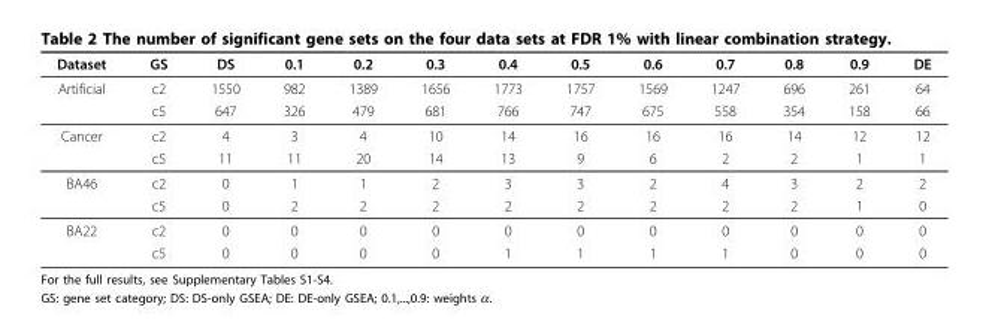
<table><thead><tr><td>Dataset</td><td>GS</td><td>DS</td><td>0.1</td><td>0.2</td><td>0.3</td><td>0.4</td><td>0.5</td><td>0.6</td><td>0.7</td><td>0.8</td><td>0.9</td><td>DE</td></tr></thead><tbody><tr><td rowspan="2">Artificial</td><td>c2</td><td>1550</td><td>982</td><td>1389</td><td>1656</td><td>1773</td><td>1757</td><td>1569</td><td>1247</td><td>696</td><td>261</td><td>64</td></tr><tr><td>c5</td><td>647</td><td>326</td><td>479</td><td>681</td><td>766</td><td>747</td><td>675</td><td>558</td><td>354</td><td>158</td><td>66</td></tr><tr><td rowspan="2">Cancer</td><td>c2</td><td>4</td><td>3</td><td>4</td><td>10</td><td>14</td><td>16</td><td>16</td><td>16</td><td>14</td><td>12</td><td>12</td></tr><tr><td>c5</td><td>11</td><td>11</td><td>20</td><td>14</td><td>13</td><td>9</td><td>6</td><td>2</td><td>2</td><td>1</td><td>1</td></tr><tr><td rowspan="2">BA46</td><td>c2</td><td>0</td><td>1</td><td>1</td><td>2</td><td>3</td><td>3</td><td>2</td><td>4</td><td>3</td><td>2</td><td>2</td></tr><tr><td>c5</td><td>0</td><td>2</td><td>2</td><td>2</td><td>2</td><td>2</td><td>2</td><td>2</td><td>2</td><td>1</td><td>0</td></tr><tr><td rowspan="2">BA22</td><td>c2</td><td>0</td><td>0</td><td>0</td><td>0</td><td>0</td><td>0</td><td>0</td><td>0</td><td>0</td><td>0</td><td>0</td></tr><tr><td>c5</td><td>0</td><td>0</td><td>0</td><td>0</td><td>1</td><td>1</td><td>1</td><td>1</td><td>0</td><td>0</td><td>0</td></tr></tbody></table>